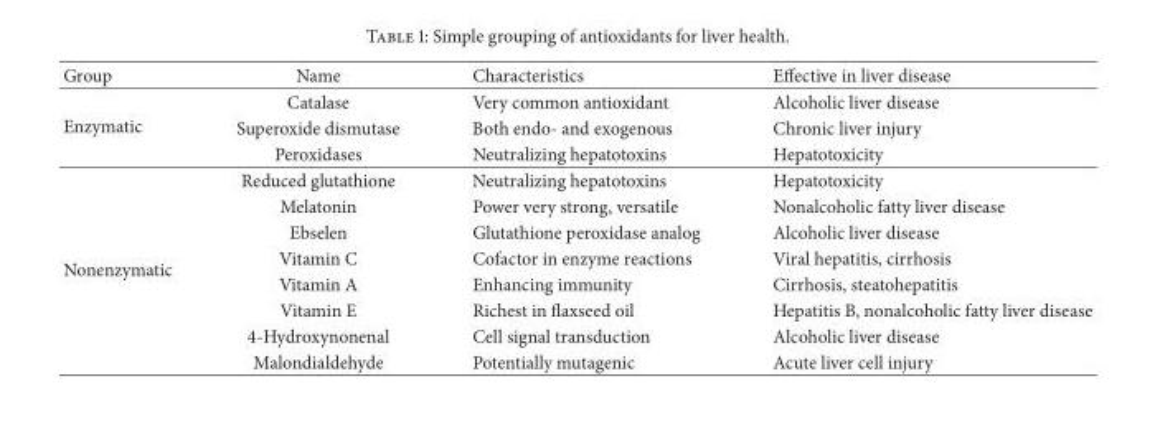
<table><thead><tr><td>Group</td><td>Name</td><td>Characteristics</td><td>Effective in liver disease</td></tr></thead><tbody><tr><td rowspan="3">Enzymatic</td><td>Catalase</td><td>Very common antioxidant</td><td>Alcoholic liver disease</td></tr><tr><td>Superoxide dismutase</td><td>Both endo- and exogenous</td><td>Chronic liver injury</td></tr><tr><td>Peroxidases</td><td>Neutralizing hepatotoxins</td><td>Hepatotoxicity</td></tr><tr><td rowspan="8">Nonenzymatic</td><td>Reduced glutathione</td><td>Neutralizing hepatotoxins</td><td>Hepatotoxicity</td></tr><tr><td>Melatonin</td><td>Power very strong, versatile</td><td>Nonalcoholic fatty liver disease</td></tr><tr><td>Ebselen</td><td>Glutathione peroxidase analog</td><td>Alcoholic liver disease</td></tr><tr><td>Vitamin C</td><td>Cofactor in enzyme reactions</td><td>Viral hepatitis, cirrhosis</td></tr><tr><td>Vitamin A</td><td>Enhancing immunity</td><td>Cirrhosis, steatohepatitis</td></tr><tr><td>Vitamin E</td><td>Richest in flaxseed oil</td><td>Hepatitis B, nonalcoholic fatty liver disease</td></tr><tr><td>4-Hydroxynonenal</td><td>Cell signal transduction</td><td>Alcoholic liver disease</td></tr><tr><td>Malondialdehyde</td><td>Potentially mutagenic</td><td>Acute liver cell injury</td></tr></tbody></table>